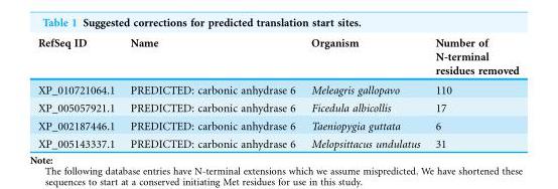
<table><thead><tr><td>RefSeq ID</td><td>Name</td><td>Organism</td><td>Number of N-terminal residues removed</td></tr></thead><tbody><tr><td>XP_010721064.1</td><td>PREDICTED: carbonic anhydrase 6</td><td>Meleagris gallopavo</td><td>110</td></tr><tr><td>XP_005057921.1</td><td>PREDICTED: carbonic anhydrase 6</td><td>Ficedula albicollis</td><td>17</td></tr><tr><td>XP_002187446.1</td><td>PREDICTED: carbonic anhydrase 6</td><td>Taeniopygia guttata</td><td>6</td></tr><tr><td>XP_005143337.1</td><td>PREDICTED: carbonic anhydrase 6</td><td>Melopsittacus undulatus</td><td>31</td></tr></tbody></table>